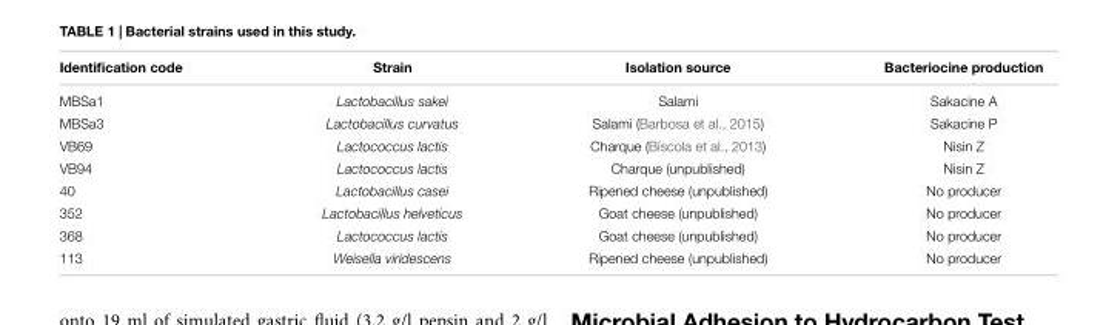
<table><thead><tr><td>Identification code</td><td>Strain</td><td>Isolation source</td><td>Bacteriocine production</td></tr></thead><tbody><tr><td>MBSa1</td><td>Lactobacillus sakei</td><td>Salami</td><td>Sakacine A</td></tr><tr><td>MBSa3</td><td>Lactobacillus curvatus</td><td>Salami (Barbosa et al., 2015)</td><td>Sakacine P</td></tr><tr><td>VB69</td><td>Lactococcus lactis</td><td>Charque (Bíscola et al., 2013)</td><td>Nisin Z</td></tr><tr><td>VB94</td><td>Lactococcus lactis</td><td>Charque (unpublished)</td><td>Nisin Z</td></tr><tr><td>40</td><td>Lactobacillus casei</td><td>Ripened cheese (unpublished)</td><td>No producer</td></tr><tr><td>352</td><td>Lactobacillus helveticus</td><td>Goat cheese (unpublished)</td><td>No producer</td></tr><tr><td>368</td><td>Lactococcus lactis</td><td>Goat cheese (unpublished)</td><td>No producer</td></tr><tr><td>113</td><td>Weisella viridescens</td><td>Ripened cheese (unpublished)</td><td>No producer</td></tr></tbody></table>